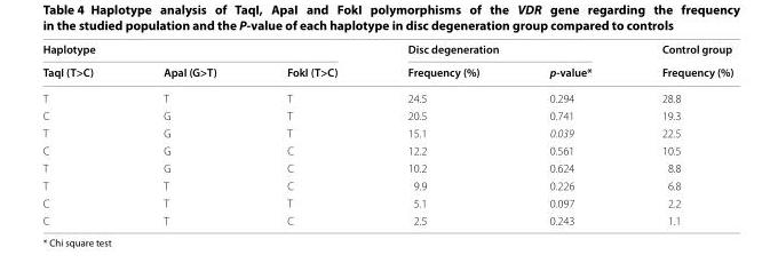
<table><thead><tr><td colspan="3">Haplotype</td><td colspan="2">Disc degeneration</td><td rowspan="2">Control group Frequency (%)</td></tr><tr><td>TaqI (T&gt;C)</td><td>ApaI (G&gt;T)</td><td>FokI (T&gt;C)</td><td>Frequency (%)</td><td>p-value*</td></tr></thead><tbody><tr><td>T</td><td>T</td><td>T</td><td>24.5</td><td>0.294</td><td>28.8</td></tr><tr><td>C</td><td>G</td><td>T</td><td>20.5</td><td>0.741</td><td>19.3</td></tr><tr><td>T</td><td>G</td><td>T</td><td>15.1</td><td>0.039</td><td>22.5</td></tr><tr><td>C</td><td>G</td><td>C</td><td>12.2</td><td>0.561</td><td>10.5</td></tr><tr><td>T</td><td>G</td><td>C</td><td>10.2</td><td>0.624</td><td>8.8</td></tr><tr><td>T</td><td>T</td><td>C</td><td>9.9</td><td>0.226</td><td>6.8</td></tr><tr><td>C</td><td>T</td><td>T</td><td>5.1</td><td>0.097</td><td>2.2</td></tr><tr><td>C</td><td>T</td><td>C</td><td>2.5</td><td>0.243</td><td>1.1</td></tr></tbody></table>